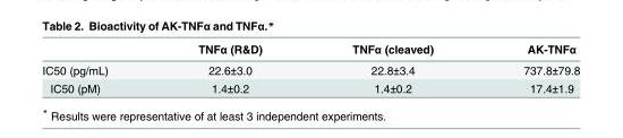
<table><thead><tr><td></td><td>TNFα (R&amp;D)</td><td>TNFα (cleaved)</td><td>AK-TNFα</td></tr></thead><tbody><tr><td>IC50 (pg/mL)</td><td>22.6±3.0</td><td>22.8±3.4</td><td>737.8±79.8</td></tr><tr><td>IC50 (pM)</td><td>1.4±0.2</td><td>1.4±0.2</td><td>17.4±1.9</td></tr></tbody></table>